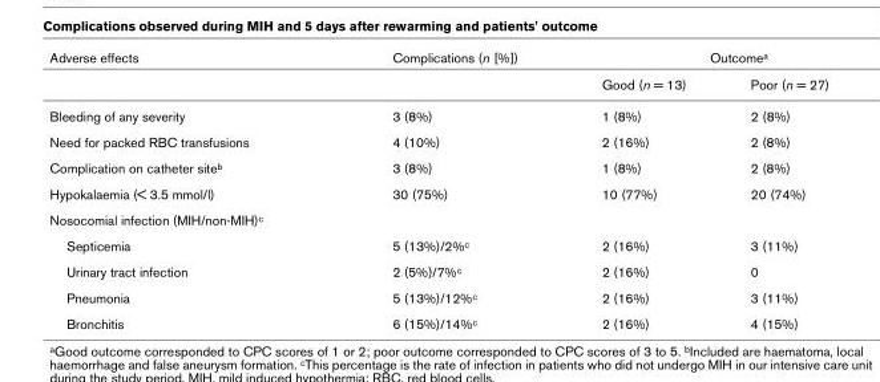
<table><thead><tr><td rowspan="2">Adverse effects</td><td rowspan="2">Complications (n [%])</td><td colspan="2">Outcome<sup>a</sup></td></tr><tr><td>Good (n = 13)</td><td>Poor (n = 27)</td></tr></thead><tbody><tr><td>Bleeding of any severity</td><td>3 (8%)</td><td>1 (8%)</td><td>2 (8%)</td></tr><tr><td>Need for packed RBC transfusions</td><td>4 (10%)</td><td>2 (16%)</td><td>2 (8%)</td></tr><tr><td>Complication on catheter site<sup>b</sup></td><td>3 (8%)</td><td>1 (8%)</td><td>2 (8%)</td></tr><tr><td>Hypokalaemia (&lt; 3.5 mmol/l)</td><td>30 (75%)</td><td>10 (77%)</td><td>20 (74%)</td></tr><tr><td colspan="4">Nosocomial infection (MIH/non-MIH)<sup>c</sup></td></tr><tr><td>Septicemia</td><td>5 (13%)/2%<sup>c</sup></td><td>2 (16%)</td><td>3 (11%)</td></tr><tr><td>Urinary tract infection</td><td>2 (5%)/7%<sup>c</sup></td><td>2 (16%)</td><td>0</td></tr><tr><td>Pneumonia</td><td>5 (13%)/12%<sup>c</sup></td><td>2 (16%)</td><td>3 (11%)</td></tr><tr><td>Bronchitis</td><td>6 (15%)/14%<sup>c</sup></td><td>2 (16%)</td><td>4 (15%)</td></tr></tbody></table>